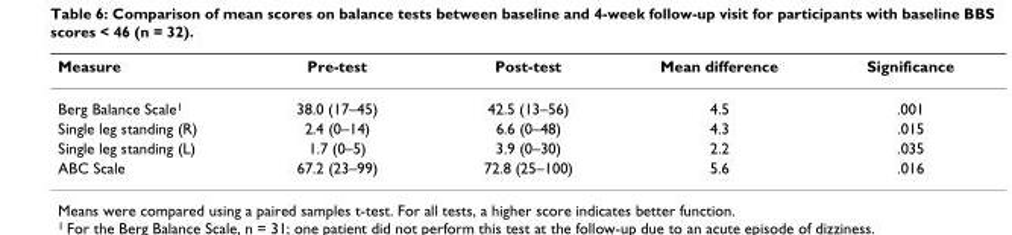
<table><thead><tr><td>Measure</td><td>Pre-test</td><td>Post-test</td><td>Mean difference</td><td>Significance</td></tr></thead><tbody><tr><td>Berg Balance Scale<sup>1</sup></td><td>38.0 (17–45)</td><td>42.5 (13–56)</td><td>4.5</td><td>.001</td></tr><tr><td>Single leg standing (R)</td><td>2.4 (0–14)</td><td>6.6 (0–48)</td><td>4.3</td><td>.015</td></tr><tr><td>Single leg standing (L)</td><td>1.7 (0–5)</td><td>3.9 (0–30)</td><td>2.2</td><td>.035</td></tr><tr><td>ABC Scale</td><td>67.2 (23–99)</td><td>72.8 (25–100)</td><td>5.6</td><td>.016</td></tr></tbody></table>